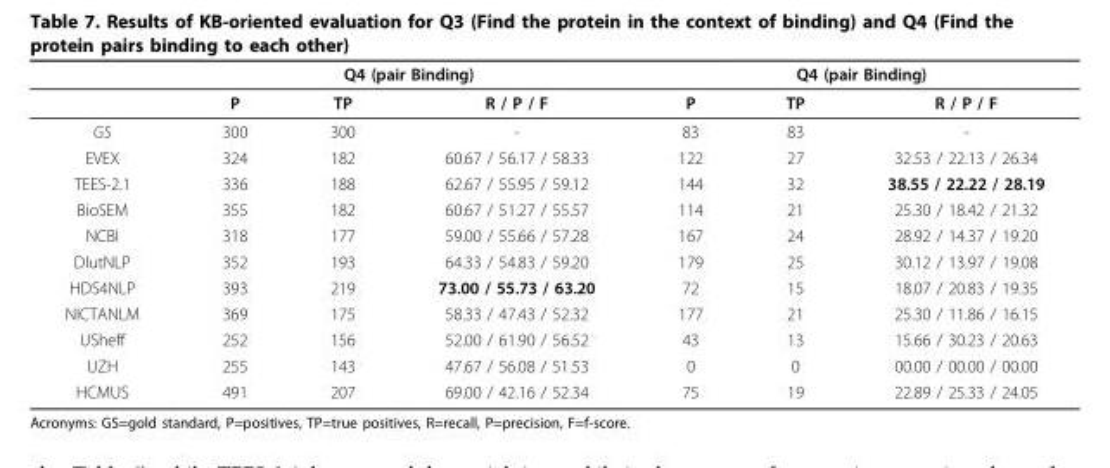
<table><thead><tr><td rowspan="2"></td><td colspan="3">Q4 (pair Binding)</td><td colspan="3">Q4 (pair Binding)</td></tr><tr><td>P</td><td>TP</td><td>R / P / F</td><td>P</td><td>TP</td><td>R / P / F</td></tr></thead><tbody><tr><td>GS</td><td>300</td><td>300</td><td>-</td><td>83</td><td>83</td><td>-</td></tr><tr><td>EVEX</td><td>324</td><td>182</td><td>60.67 / 56.17 / 58.33</td><td>122</td><td>27</td><td>32.53 / 22.13 / 26.34</td></tr><tr><td>TEES-2.1</td><td>336</td><td>188</td><td>62.67 / 55.95 / 59.12</td><td>144</td><td>32</td><td>38.55 / 22.22 / 28.19</td></tr><tr><td>BioSEM</td><td>355</td><td>182</td><td>60.67 / 51.27 / 55.57</td><td>114</td><td>21</td><td>25.30 / 18.42 / 21.32</td></tr><tr><td>NCBI</td><td>318</td><td>177</td><td>59.00 / 55.66 / 57.28</td><td>167</td><td>24</td><td>28.92 / 14.37 / 19.20</td></tr><tr><td>DlutNLP</td><td>352</td><td>193</td><td>64.33 / 54.83 / 59.20</td><td>179</td><td>25</td><td>30.12 / 13.97 / 19.08</td></tr><tr><td>HDS4NLP</td><td>393</td><td>219</td><td>73.00 / 55.73 / 63.20</td><td>72</td><td>15</td><td>18.07 / 20.83 / 19.35</td></tr><tr><td>NICTANLM</td><td>369</td><td>175</td><td>58.33 / 47.43 / 52.32</td><td>177</td><td>21</td><td>25.30 / 11.86 / 16.15</td></tr><tr><td>USheff</td><td>252</td><td>156</td><td>52.00 / 61.90 / 56.52</td><td>43</td><td>13</td><td>15.66 / 30.23 / 20.63</td></tr><tr><td>UZH</td><td>255</td><td>143</td><td>47.67 / 56.08 / 51.53</td><td>0</td><td>0</td><td>00.00 / 00.00 / 00.00</td></tr><tr><td>HCMUS</td><td>491</td><td>207</td><td>69.00 / 42.16 / 52.34</td><td>75</td><td>19</td><td>22.89 / 25.33 / 24.05</td></tr></tbody></table>